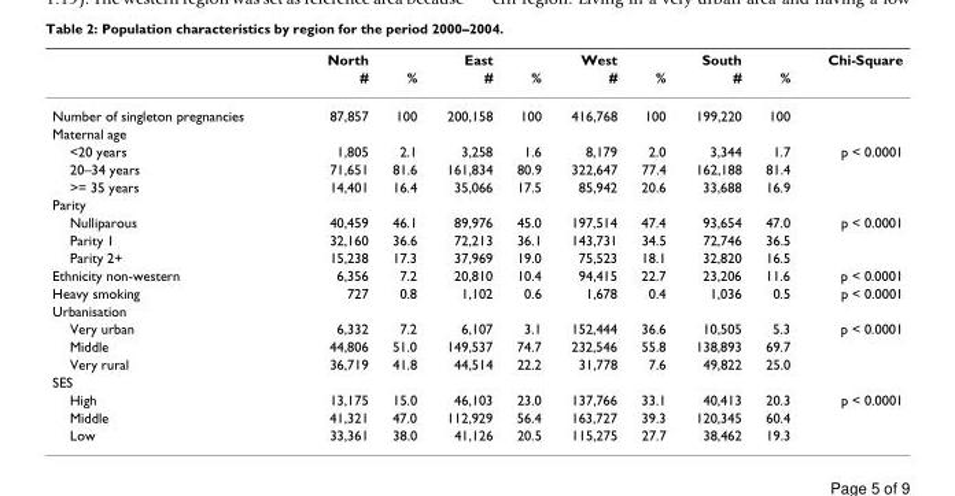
<table><thead><tr><td rowspan="2"></td><td rowspan="2">North #</td><td rowspan="2">%</td><td rowspan="2">East #</td><td rowspan="2">%</td><td rowspan="2">West #</td><td rowspan="2">%</td><td rowspan="2">South #</td><td rowspan="2">%</td><td rowspan="2">Chi-Square</td></tr><tr></tr></thead><tbody><tr><td>Number of singleton pregnancies</td><td>87,857</td><td>100</td><td>200,158</td><td>100</td><td>416,768</td><td>100</td><td>199,220</td><td>100</td><td></td></tr><tr><td colspan="10">Maternal age</td></tr><tr><td>&lt;20 years</td><td>1,805</td><td>2.1</td><td>3,258</td><td>1.6</td><td>8,179</td><td>2.0</td><td>3,344</td><td>1.7</td><td>p &lt; 0.0001</td></tr><tr><td>20–34 years</td><td>71,651</td><td>81.6</td><td>161,834</td><td>80.9</td><td>322,647</td><td>77.4</td><td>162,188</td><td>81.4</td><td></td></tr><tr><td>&gt;= 35 years</td><td>14,401</td><td>16.4</td><td>35,066</td><td>17.5</td><td>85,942</td><td>20.6</td><td>33,688</td><td>16.9</td><td></td></tr><tr><td colspan="10">Parity</td></tr><tr><td>Nulliparous</td><td>40,459</td><td>46.1</td><td>89,976</td><td>45.0</td><td>197,514</td><td>47.4</td><td>93,654</td><td>47.0</td><td>p &lt; 0.0001</td></tr><tr><td>Parity 1</td><td>32,160</td><td>36.6</td><td>72,213</td><td>36.1</td><td>143,731</td><td>34.5</td><td>72,746</td><td>36.5</td><td></td></tr><tr><td>Parity 2+</td><td>15,238</td><td>17.3</td><td>37,969</td><td>19.0</td><td>75,523</td><td>18.1</td><td>32,820</td><td>16.5</td><td></td></tr><tr><td>Ethnicity non-western</td><td>6,356</td><td>7.2</td><td>20,810</td><td>10.4</td><td>94,415</td><td>22.7</td><td>23,206</td><td>11.6</td><td>p &lt; 0.0001</td></tr><tr><td>Heavy smoking</td><td>727</td><td>0.8</td><td>1,102</td><td>0.6</td><td>1,678</td><td>0.4</td><td>1,036</td><td>0.5</td><td>p &lt; 0.0001</td></tr><tr><td colspan="10">Urbanisation</td></tr><tr><td>Very urban</td><td>6,332</td><td>7.2</td><td>6,107</td><td>3.1</td><td>152,444</td><td>36.6</td><td>10,505</td><td>5.3</td><td>p &lt; 0.0001</td></tr><tr><td>Middle</td><td>44,806</td><td>51.0</td><td>149,537</td><td>74.7</td><td>232,546</td><td>55.8</td><td>138,893</td><td>69.7</td><td></td></tr><tr><td>Very rural</td><td>36,719</td><td>41.8</td><td>44,514</td><td>22.2</td><td>31,778</td><td>7.6</td><td>49,822</td><td>25.0</td><td></td></tr><tr><td colspan="10">SES</td></tr><tr><td>High</td><td>13,175</td><td>15.0</td><td>46,103</td><td>23.0</td><td>137,766</td><td>33.1</td><td>40,413</td><td>20.3</td><td>p &lt; 0.0001</td></tr><tr><td>Middle</td><td>41,321</td><td>47.0</td><td>112,929</td><td>56.4</td><td>163,727</td><td>39.3</td><td>120,345</td><td>60.4</td><td></td></tr><tr><td>Low</td><td>33,361</td><td>38.0</td><td>41,126</td><td>20.5</td><td>115,275</td><td>27.7</td><td>38,462</td><td>19.3</td><td></td></tr></tbody></table>